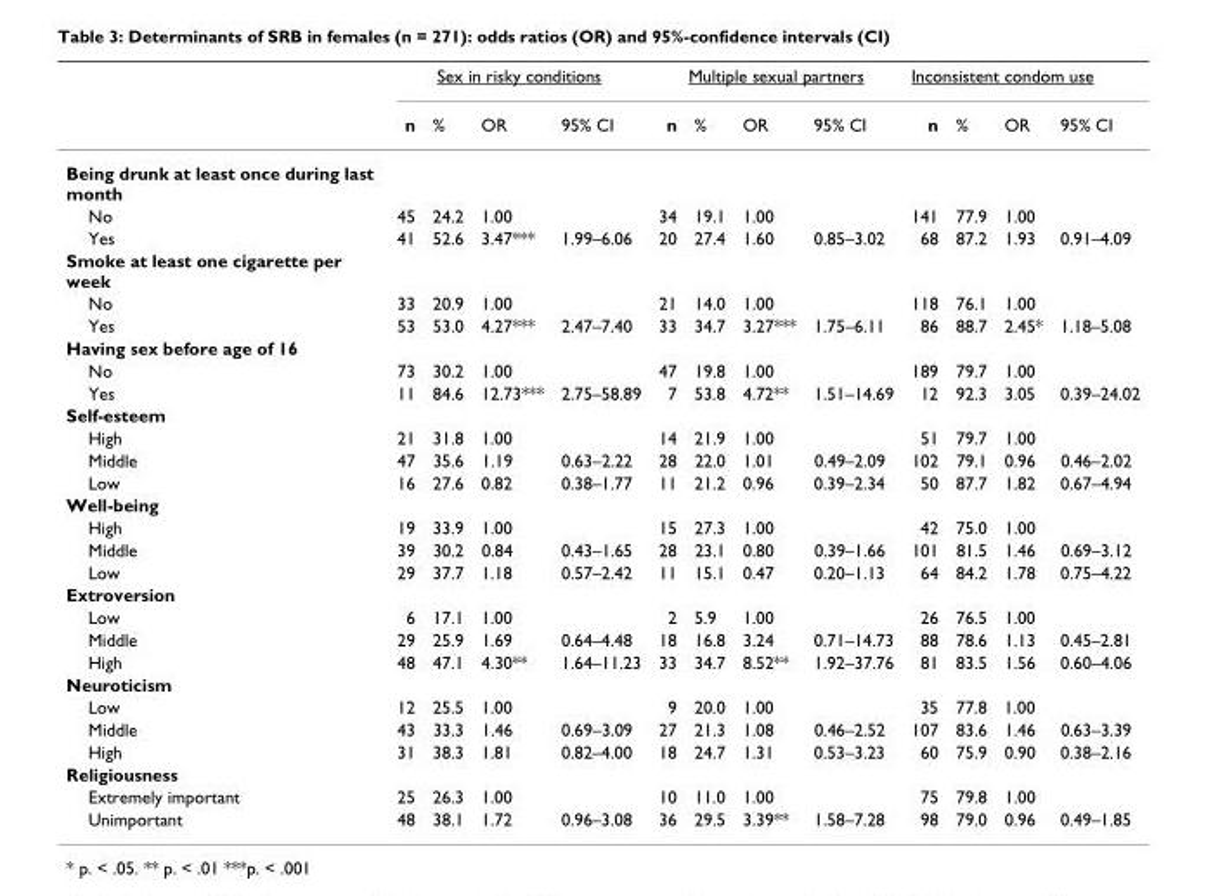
<table><thead><tr><td rowspan="2"></td><td colspan="4">Sex in risky conditions</td><td colspan="4">Multiple sexual partners</td><td colspan="4">Inconsistent condom use</td></tr><tr><td>n</td><td>%</td><td>OR</td><td>95% CI</td><td>n</td><td>%</td><td>OR</td><td>95% CI</td><td>n</td><td>%</td><td>OR</td><td>95% CI</td></tr></thead><tbody><tr><td colspan="13">Being drunk at least once during last month</td></tr><tr><td>No</td><td>45</td><td>24.2</td><td>1.00</td><td></td><td>34</td><td>19.1</td><td>1.00</td><td></td><td>141</td><td>77.9</td><td>1.00</td><td></td></tr><tr><td>Yes</td><td>41</td><td>52.6</td><td>3.47***</td><td>1.99–6.06</td><td>20</td><td>27.4</td><td>1.60</td><td>0.85–3.02</td><td>68</td><td>87.2</td><td>1.93</td><td>0.91–4.09</td></tr><tr><td colspan="13">Smoke at least one cigarette per week</td></tr><tr><td>No</td><td>33</td><td>20.9</td><td>1.00</td><td></td><td>21</td><td>14.0</td><td>1.00</td><td></td><td>118</td><td>76.1</td><td>1.00</td><td></td></tr><tr><td>Yes</td><td>53</td><td>53.0</td><td>4.27***</td><td>2.47–7.40</td><td>33</td><td>34.7</td><td>3.27***</td><td>1.75–6.11</td><td>86</td><td>88.7</td><td>2.45*</td><td>1.18–5.08</td></tr><tr><td colspan="13">Having sex before age of 16</td></tr><tr><td>No</td><td>73</td><td>30.2</td><td>1.00</td><td></td><td>47</td><td>19.8</td><td>1.00</td><td></td><td>189</td><td>79.7</td><td>1.00</td><td></td></tr><tr><td>Yes</td><td>11</td><td>84.6</td><td>12.73***</td><td>2.75–58.89</td><td>7</td><td>53.8</td><td>4.72**</td><td>1.51–14.69</td><td>12</td><td>92.3</td><td>3.05</td><td>0.39–24.02</td></tr><tr><td colspan="13">Self-esteem</td></tr><tr><td>High</td><td>21</td><td>31.8</td><td>1.00</td><td></td><td>14</td><td>21.9</td><td>1.00</td><td></td><td>51</td><td>79.7</td><td>1.00</td><td></td></tr><tr><td>Middle</td><td>47</td><td>35.6</td><td>1.19</td><td>0.63–2.22</td><td>28</td><td>22.0</td><td>1.01</td><td>0.49–2.09</td><td>102</td><td>79.1</td><td>0.96</td><td>0.46–2.02</td></tr><tr><td>Low</td><td>16</td><td>27.6</td><td>0.82</td><td>0.38–1.77</td><td>11</td><td>21.2</td><td>0.96</td><td>0.39–2.34</td><td>50</td><td>87.7</td><td>1.82</td><td>0.67–4.94</td></tr><tr><td colspan="13">Well-being</td></tr><tr><td>High</td><td>19</td><td>33.9</td><td>1.00</td><td></td><td>15</td><td>27.3</td><td>1.00</td><td></td><td>42</td><td>75.0</td><td>1.00</td><td></td></tr><tr><td>Middle</td><td>39</td><td>30.2</td><td>0.84</td><td>0.43–1.65</td><td>28</td><td>23.1</td><td>0.80</td><td>0.39–1.66</td><td>101</td><td>81.5</td><td>1.46</td><td>0.69–3.12</td></tr><tr><td>Low</td><td>29</td><td>37.7</td><td>1.18</td><td>0.57–2.42</td><td>11</td><td>15.1</td><td>0.47</td><td>0.20–1.13</td><td>64</td><td>84.2</td><td>1.78</td><td>0.75–4.22</td></tr><tr><td colspan="13">Extroversion</td></tr><tr><td>Low</td><td>6</td><td>17.1</td><td>1.00</td><td></td><td>2</td><td>5.9</td><td>1.00</td><td></td><td>26</td><td>76.5</td><td>1.00</td><td></td></tr><tr><td>Middle</td><td>29</td><td>25.9</td><td>1.69</td><td>0.64–4.48</td><td>18</td><td>16.8</td><td>3.24</td><td>0.71–14.73</td><td>88</td><td>78.6</td><td>1.13</td><td>0.45–2.81</td></tr><tr><td>High</td><td>48</td><td>47.1</td><td>4.30**</td><td>1.64–11.23</td><td>33</td><td>34.7</td><td>8.52**</td><td>1.92–37.76</td><td>81</td><td>83.5</td><td>1.56</td><td>0.60–4.06</td></tr><tr><td colspan="13">Neuroticism</td></tr><tr><td>Low</td><td>12</td><td>25.5</td><td>1.00</td><td></td><td>9</td><td>20.0</td><td>1.00</td><td></td><td>35</td><td>77.8</td><td>1.00</td><td></td></tr><tr><td>Middle</td><td>43</td><td>33.3</td><td>1.46</td><td>0.69–3.09</td><td>27</td><td>21.3</td><td>1.08</td><td>0.46–2.52</td><td>107</td><td>83.6</td><td>1.46</td><td>0.63–3.39</td></tr><tr><td>High</td><td>31</td><td>38.3</td><td>1.81</td><td>0.82–4.00</td><td>18</td><td>24.7</td><td>1.31</td><td>0.53–3.23</td><td>60</td><td>75.9</td><td>0.90</td><td>0.38–2.16</td></tr><tr><td colspan="13">Religiousness</td></tr><tr><td>Extremely important</td><td>25</td><td>26.3</td><td>1.00</td><td></td><td>10</td><td>11.0</td><td>1.00</td><td></td><td>75</td><td>79.8</td><td>1.00</td><td></td></tr><tr><td>Unimportant</td><td>48</td><td>38.1</td><td>1.72</td><td>0.96–3.08</td><td>36</td><td>29.5</td><td>3.39**</td><td>1.58–7.28</td><td>98</td><td>79.0</td><td>0.96</td><td>0.49–1.85</td></tr></tbody></table>